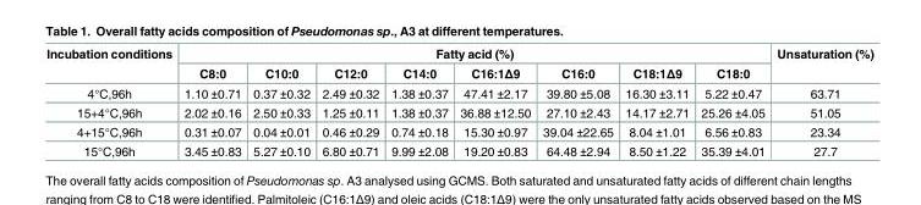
<table><thead><tr><td rowspan="2">Incubation conditions</td><td colspan="8">Fatty acid (%)</td><td rowspan="2">Unsaturation (%)</td></tr><tr><td>C8:0</td><td>C10:0</td><td>C12:0</td><td>C14:0</td><td>C16:1Δ9</td><td>C16:0</td><td>C18:1Δ9</td><td>C18:0</td></tr></thead><tbody><tr><td>4°C,96h</td><td>1.10 ±0.71</td><td>0.37 ±0.32</td><td>2.49 ±0.32</td><td>1.38 ±0.37</td><td>47.41 ±2.17</td><td>39.80 ±5.08</td><td>16.30 ±3.11</td><td>5.22 ±0.47</td><td>63.71</td></tr><tr><td>15+4°C,96h</td><td>2.02 ±0.16</td><td>2.50 ±0.33</td><td>1.25 ±0.11</td><td>1.38 ±0.37</td><td>36.88 ±12.50</td><td>27.10 ±2.43</td><td>14.17 ±2.71</td><td>25.26 ±4.05</td><td>51.05</td></tr><tr><td>4+15°C,96h</td><td>0.31 ±0.07</td><td>0.04 ±0.01</td><td>0.46 ±0.29</td><td>0.74 ±0.18</td><td>15.30 ±0.97</td><td>39.04 ±22.65</td><td>8.04 ±1.01</td><td>6.56 ±0.83</td><td>23.34</td></tr><tr><td>15°C,96h</td><td>3.45 ±0.83</td><td>5.27 ±0.10</td><td>6.80 ±0.71</td><td>9.99 ±2.08</td><td>19.20 ±0.83</td><td>64.48 ±2.94</td><td>8.50 ±1.22</td><td>35.39 ±4.01</td><td>27.7</td></tr></tbody></table>